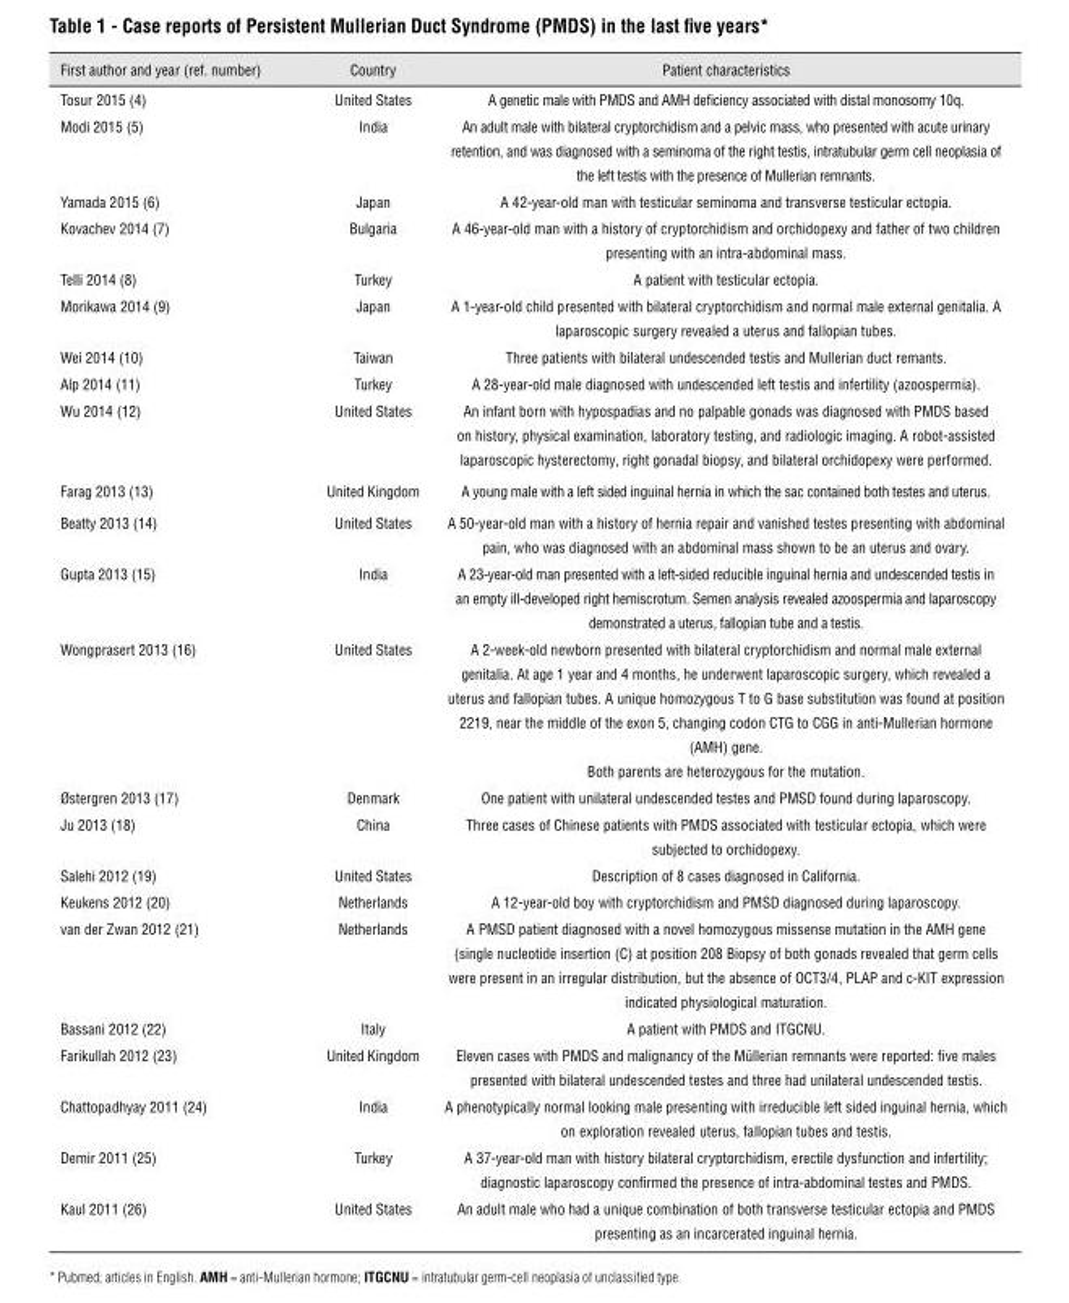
<table><thead><tr><td>First author and year (ref. number)</td><td>Country</td><td>Patient characteristics</td></tr></thead><tbody><tr><td>Tosur 2015 (4)</td><td>United States</td><td>A genetic male with PMDS and AMH deficiency associated with distal monosomy 10q.</td></tr><tr><td>Modi 2015 (5)</td><td>India</td><td>An adult male with bilateral cryptorchidism and a pelvic mass, who presented with acute urinary retention, and was diagnosed with a seminoma of the right testis, intratubular germ cell neoplasia of the left testis with the presence of Mullerian remnants.</td></tr><tr><td>Yamada 2015 (6)</td><td>Japan</td><td>A 42-year-old man with testicular seminoma and transverse testicular ectopia.</td></tr><tr><td>Kovachev 2014 (7)</td><td>Bulgaria</td><td>A 46-year-old man with a history of cryptorchidism and orchidopexy and father of two children presenting with an intra-abdominal mass.</td></tr><tr><td>Telli 2014 (8)</td><td>Turkey</td><td>A patient with testicular ectopia.</td></tr><tr><td>Morikawa 2014 (9)</td><td>Japan</td><td>A 1-year-old child presented with bilateral cryptorchidism and normal male external genitalia. A laparoscopic surgery revealed a uterus and fallopian tubes.</td></tr><tr><td>Wei 2014 (10)</td><td>Taiwan</td><td>Three patients with bilateral undescended testis and Mullerian duct remants.</td></tr><tr><td>Alp 2014 (11)</td><td>Turkey</td><td>A 28-year-old male diagnosed with undescended left testis and infertility (azoospermia).</td></tr><tr><td>Wu 2014 (12)</td><td>United States</td><td>An infant born with hypospadias and no palpable gonads was diagnosed with PMDS based on history, physical examination, laboratory testing, and radiologic imaging. A robot-assisted laparoscopic hysterectomy, right gonadal biopsy, and bilateral orchidopexy were performed.</td></tr><tr><td>Farag 2013 (13)</td><td>United Kingdom</td><td>A young male with a left sided inguinal hernia in which the sac contained both testes and uterus.</td></tr><tr><td>Beatty 2013 (14)</td><td>United States</td><td>A 50-year-old man with a history of hernia repair and vanished testes presenting with abdominal pain, who was diagnosed with an abdominal mass shown to be an uterus and ovary.</td></tr><tr><td>Gupta 2013 (15)</td><td>India</td><td>A 23-year-old man presented with a left-sided reducible inguinal hernia and undescended testis in an empty ill-developed right hemiscrotum. Semen analysis revealed azoospermia and laparoscopy demonstrated a uterus, fallopian tube and a testis.</td></tr><tr><td>Wongprasert 2013 (16)</td><td>United States</td><td>A 2-week-old newborn presented with bilateral cryptorchidism and normal male external genitalia. At age 1 year and 4 months, he underwent laparoscopic surgery, which revealed a uterus and fallopian tubes. A unique homozygous T to G base substitution was found at position 2219, near the middle of the exon 5, changing codon CTG to CGG in anti-Mullerian hormone (AMH) gene. Both parents are heterozygous for the mutation.</td></tr><tr><td>Østergren 2013 (17)</td><td>Denmark</td><td>One patient with unilateral undescended testes and PMSD found during laparoscopy.</td></tr><tr><td>Ju 2013 (18)</td><td>China</td><td>Three cases of Chinese patients with PMDS associated with testicular ectopia, which were subjected to orchidopexy.</td></tr><tr><td>Salehi 2012 (19)</td><td>United States</td><td>Description of 8 cases diagnosed in California.</td></tr><tr><td>Keukens 2012 (20)</td><td>Netherlands</td><td>A 12-year-old boy with cryptorchidism and PMSD diagnosed during laparoscopy.</td></tr><tr><td>van der Zwan 2012 (21)</td><td>Netherlands</td><td>A PMSD patient diagnosed with a novel homozygous missense mutation in the AMH gene (single nucleotide insertion (C) at position 208 Biopsy of both gonads revealed that germ cells were present in an irregular distribution, but the absence of OCT3/4, PLAP and c-KIT expression indicated physiological maturation.</td></tr><tr><td>Bassani 2012 (22)</td><td>Italy</td><td>A patient with PMDS and ITGCNU.</td></tr><tr><td>Farikullah 2012 (23)</td><td>United Kingdom</td><td>Eleven cases with PMDS and malignancy of the Müllerian remnants were reported: five males presented with bilateral undescended testes and three had unilateral undescended testis.</td></tr><tr><td>Chattopadhyay 2011 (24)</td><td>India</td><td>A phenotypically normal looking male presenting with irreducible left sided inguinal hernia, which on exploration revealed uterus, fallopian tubes and testis.</td></tr><tr><td>Demir 2011 (25)</td><td>Turkey</td><td>A 37-year-old man with history bilateral cryptorchidism, erectile dysfunction and infertility; diagnostic laparoscopy confirmed the presence of intra-abdominal testes and PMDS.</td></tr><tr><td>Kaul 2011 (26)</td><td>United States</td><td>An adult male who had a unique combination of both transverse testicular ectopia and PMDS presenting as an incarcerated inguinal hernia.</td></tr></tbody></table>